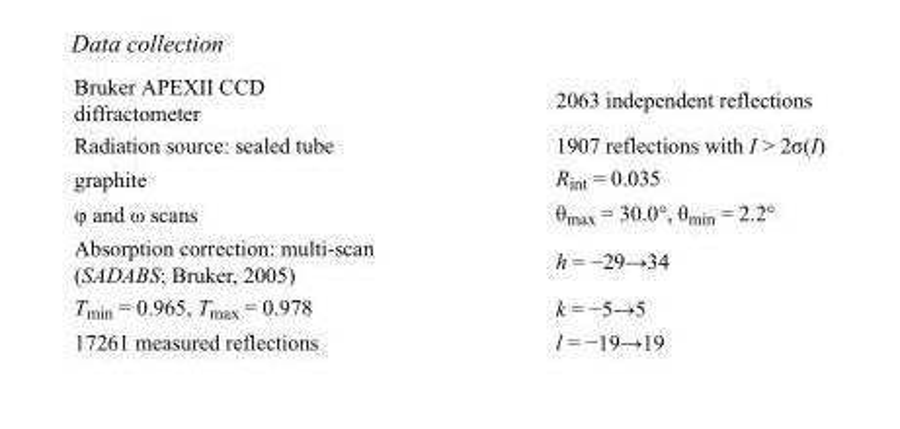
<table><tbody><tr><td>Bruker APEXII CCD diffractometer</td><td>2063 independent reflections</td></tr><tr><td>Radiation source: sealed tube</td><td>1907 reflections with I &gt; 2σ(I)</td></tr><tr><td>graphite</td><td>R<sub>int</sub> = 0.035</td></tr><tr><td>φ and ω scans</td><td>θ<sub>max</sub> = 30.0°, θ<sub>min</sub> = 2.2°</td></tr><tr><td>Absorption correction: multi-scan (SADABS; Bruker, 2005)</td><td>h = −29→34</td></tr><tr><td>T<sub>min</sub> = 0.965, T<sub>max</sub> = 0.978</td><td>k = −5→5</td></tr><tr><td>17261 measured reflections</td><td>l = −19→19</td></tr></tbody></table>